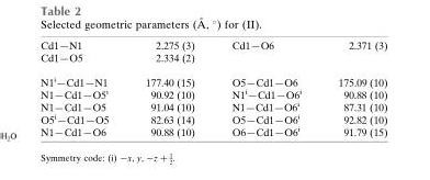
<table><tbody><tr><td>Cd1—N1</td><td>2.275 (3)</td><td>Cd1—O6</td><td>2.371 (3)</td></tr><tr><td>Cd1—O5</td><td>2.334 (2)</td><td></td><td></td></tr><tr><td>N1<sup>i</sup>—Cd1—N1</td><td>177.40 (15)</td><td>O5—Cd1—O6</td><td>175.09 (10)</td></tr><tr><td>N1—Cd1—O5<sup>i</sup></td><td>90.92 (10)</td><td>N1<sup>i</sup>—Cd1—O6<sup>i</sup></td><td>90.88 (10)</td></tr><tr><td>N1—Cd1—O5</td><td>91.04 (10)</td><td>N1—Cd1—O6<sup>i</sup></td><td>87.31 (10)</td></tr><tr><td>O5<sup>i</sup>—Cd1—O5</td><td>82.63 (14)</td><td>O5—Cd1—O6<sup>i</sup></td><td>92.82 (10)</td></tr><tr><td>N1—Cd1—O6</td><td>90.88 (10)</td><td>O6—Cd1—O6<sup>i</sup></td><td>91.79 (15)</td></tr></tbody></table>